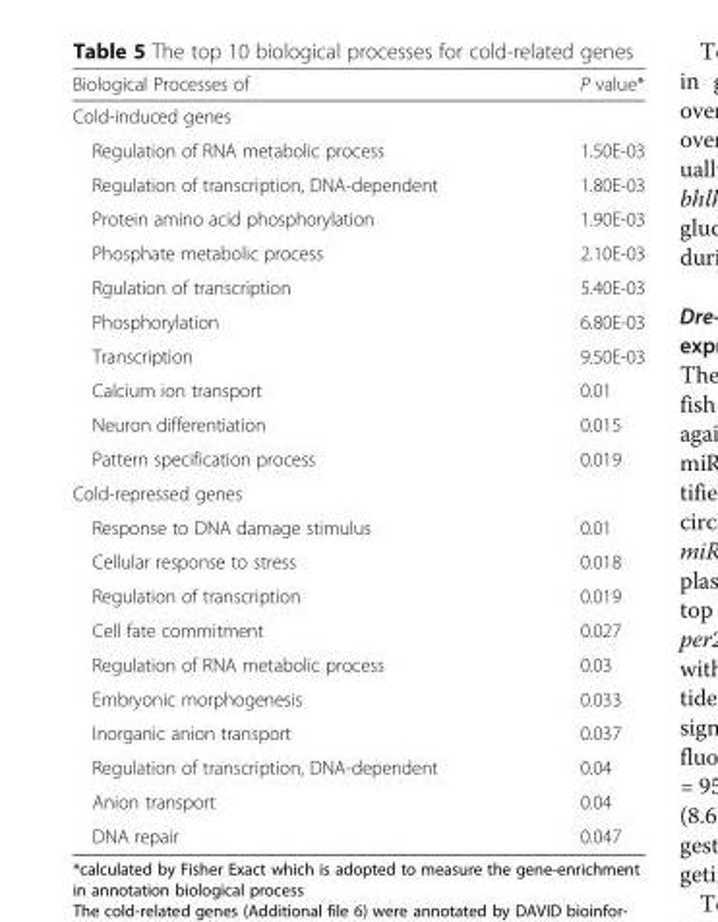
<table><thead><tr><td>Biological Processes of</td><td>P value*</td></tr></thead><tbody><tr><td colspan="2">Cold-induced genes</td></tr><tr><td>Regulation of RNA metabolic process</td><td>1.50E-03</td></tr><tr><td>Regulation of transcription, DNA-dependent</td><td>1.80E-03</td></tr><tr><td>Protein amino acid phosphorylation</td><td>1.90E-03</td></tr><tr><td>Phosphate metabolic process</td><td>2.10E-03</td></tr><tr><td>Rgulation of transcription</td><td>5.40E-03</td></tr><tr><td>Phosphorylation</td><td>6.80E-03</td></tr><tr><td>Transcription</td><td>9.50E-03</td></tr><tr><td>Calcium ion transport</td><td>0.01</td></tr><tr><td>Neuron differentiation</td><td>0.015</td></tr><tr><td>Pattern specification process</td><td>0.019</td></tr><tr><td colspan="2">Cold-repressed genes</td></tr><tr><td>Response to DNA damage stimulus</td><td>0.01</td></tr><tr><td>Cellular response to stress</td><td>0.018</td></tr><tr><td>Regulation of transcription</td><td>0.019</td></tr><tr><td>Cell fate commitment</td><td>0.027</td></tr><tr><td>Regulation of RNA metabolic process</td><td>0.03</td></tr><tr><td>Embryonic morphogenesis</td><td>0.033</td></tr><tr><td>Inorganic anion transport</td><td>0.037</td></tr><tr><td>Regulation of transcription, DNA-dependent</td><td>0.04</td></tr><tr><td>Anion transport</td><td>0.04</td></tr><tr><td>DNA repair</td><td>0.047</td></tr></tbody></table>